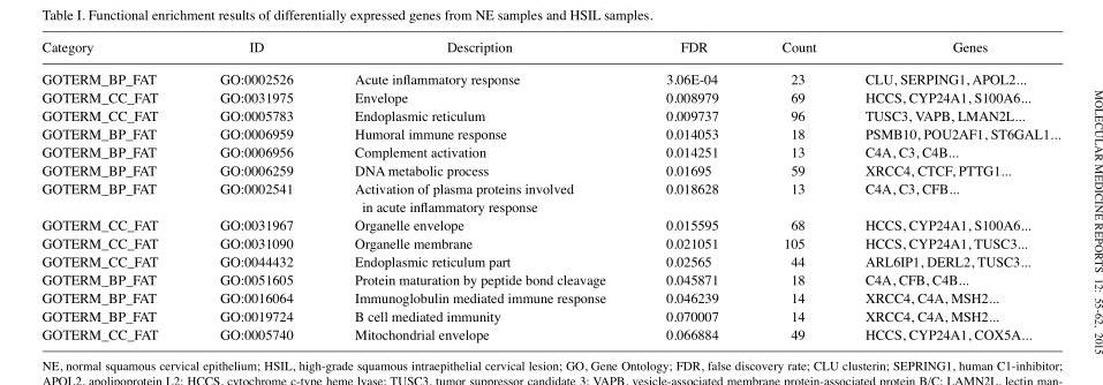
<table><thead><tr><td>Category</td><td>ID</td><td>Description</td><td>FDR</td><td>Count</td><td>Genes</td></tr></thead><tbody><tr><td>GOTERM_BP_FAT</td><td>GO:0002526</td><td>Acute inflammatory response</td><td>3.06E‑04</td><td>23</td><td>CLU, SERPING1, APOL2...</td></tr><tr><td>GOTERM_CC_FAT</td><td>GO:0031975</td><td>Envelope</td><td>0.008979</td><td>69</td><td>HCCS, CYP24A1, S100A6...</td></tr><tr><td>GOTERM_CC_FAT</td><td>GO:0005783</td><td>Endoplasmic reticulum</td><td>0.009737</td><td>96</td><td>TUSC3, VAPB, LMAN2L...</td></tr><tr><td>GOTERM_BP_FAT</td><td>GO:0006959</td><td>Humoral immune response</td><td>0.014053</td><td>18</td><td>PSMB10, POU2AF1, ST6GAL1...</td></tr><tr><td>GOTERM_BP_FAT</td><td>GO:0006956</td><td>Complement activation</td><td>0.014251</td><td>13</td><td>C4A, C3, C4B...</td></tr><tr><td>GOTERM_BP_FAT</td><td>GO:0006259</td><td>DNA metabolic process</td><td>0.01695</td><td>59</td><td>XRCC4, CTCF, PTTG1...</td></tr><tr><td>GOTERM_BP_FAT</td><td>GO:0002541</td><td>Activation of plasma proteins involved in acute inflammatory response</td><td>0.018628</td><td>13</td><td>C4A, C3, CFB...</td></tr><tr><td>GOTERM_CC_FAT</td><td>GO:0031967</td><td>Organelle envelope</td><td>0.015595</td><td>68</td><td>HCCS, CYP24A1, S100A6...</td></tr><tr><td>GOTERM_CC_FAT</td><td>GO:0031090</td><td>Organelle membrane</td><td>0.021051</td><td>105</td><td>HCCS, CYP24A1, TUSC3...</td></tr><tr><td>GOTERM_CC_FAT</td><td>GO:0044432</td><td>Endoplasmic reticulum part</td><td>0.02565</td><td>44</td><td>ARL6IP1, DERL2, TUSC3...</td></tr><tr><td>GOTERM_BP_FAT</td><td>GO:0051605</td><td>Protein maturation by peptide bond cleavage</td><td>0.045871</td><td>18</td><td>C4A, CFB, C4B...</td></tr><tr><td>GOTERM_BP_FAT</td><td>GO:0016064</td><td>Immunoglobulin mediated immune response</td><td>0.046239</td><td>14</td><td>XRCC4, C4A, MSH2...</td></tr><tr><td>GOTERM_BP_FAT</td><td>GO:0019724</td><td>B cell mediated immunity</td><td>0.070007</td><td>14</td><td>XRCC4, C4A, MSH2...</td></tr><tr><td>GOTERM_CC_FAT</td><td>GO:0005740</td><td>Mitochondrial envelope</td><td>0.066884</td><td>49</td><td>HCCS, CYP24A1, COX5A...</td></tr></tbody></table>